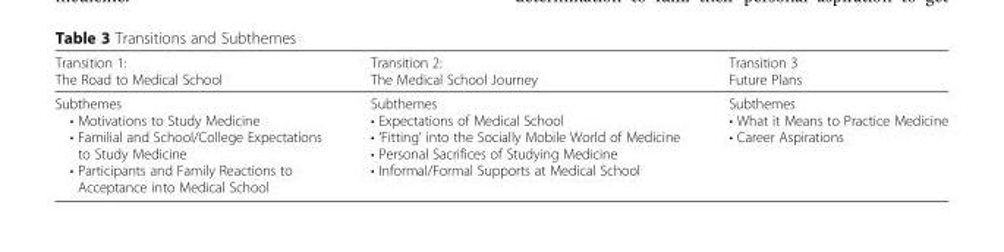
<table><thead><tr><td>Transition 1: The Road to Medical School</td><td>Transition 2: The Medical School Journey</td><td>Transition 3 Future Plans</td></tr></thead><tbody><tr><td>Subthemes • Motivations to Study Medicine • Familial and School/College Expectations to Study Medicine • Participants and Family Reactions to Acceptance into Medical School</td><td>Subthemes • Expectations of Medical School • ‘Fitting’ into the Socially Mobile World of Medicine • Personal Sacrifices of Studying Medicine • Informal/Formal Supports at Medical School</td><td>Subthemes • What it Means to Practice Medicine • Career Aspirations</td></tr></tbody></table>